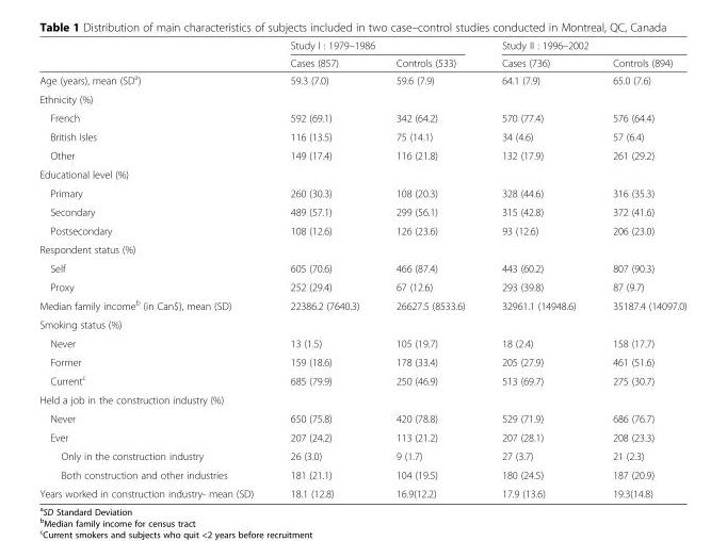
<table><thead><tr><td rowspan="2"></td><td colspan="2">Study I : 1979–1986</td><td colspan="2">Study II : 1996–2002</td></tr><tr><td>Cases (857)</td><td>Controls (533)</td><td>Cases (736)</td><td>Controls (894)</td></tr></thead><tbody><tr><td>Age (years), mean (SD<sup>a</sup>)</td><td>59.3 (7.0)</td><td>59.6 (7.9)</td><td>64.1 (7.9)</td><td>65.0 (7.6)</td></tr><tr><td colspan="5">Ethnicity (%)</td></tr><tr><td>French</td><td>592 (69.1)</td><td>342 (64.2)</td><td>570 (77.4)</td><td>576 (64.4)</td></tr><tr><td>British Isles</td><td>116 (13.5)</td><td>75 (14.1)</td><td>34 (4.6)</td><td>57 (6.4)</td></tr><tr><td>Other</td><td>149 (17.4)</td><td>116 (21.8)</td><td>132 (17.9)</td><td>261 (29.2)</td></tr><tr><td colspan="5">Educational level (%)</td></tr><tr><td>Primary</td><td>260 (30.3)</td><td>108 (20.3)</td><td>328 (44.6)</td><td>316 (35.3)</td></tr><tr><td>Secondary</td><td>489 (57.1)</td><td>299 (56.1)</td><td>315 (42.8)</td><td>372 (41.6)</td></tr><tr><td>Postsecondary</td><td>108 (12.6)</td><td>126 (23.6)</td><td>93 (12.6)</td><td>206 (23.0)</td></tr><tr><td colspan="5">Respondent status (%)</td></tr><tr><td>Self</td><td>605 (70.6)</td><td>466 (87.4)</td><td>443 (60.2)</td><td>807 (90.3)</td></tr><tr><td>Proxy</td><td>252 (29.4)</td><td>67 (12.6)</td><td>293 (39.8)</td><td>87 (9.7)</td></tr><tr><td>Median family income<sup>b</sup> (in Can$), mean (SD)</td><td>22386.2 (7640.3)</td><td>26627.5 (8533.6)</td><td>32961.1 (14948.6)</td><td>35187.4 (14097.0)</td></tr><tr><td colspan="5">Smoking status (%)</td></tr><tr><td>Never</td><td>13 (1.5)</td><td>105 (19.7)</td><td>18 (2.4)</td><td>158 (17.7)</td></tr><tr><td>Former</td><td>159 (18.6)</td><td>178 (33.4)</td><td>205 (27.9)</td><td>461 (51.6)</td></tr><tr><td>Current<sup>c</sup></td><td>685 (79.9)</td><td>250 (46.9)</td><td>513 (69.7)</td><td>275 (30.7)</td></tr><tr><td colspan="5">Held a job in the construction industry (%)</td></tr><tr><td>Never</td><td>650 (75.8)</td><td>420 (78.8)</td><td>529 (71.9)</td><td>686 (76.7)</td></tr><tr><td>Ever</td><td>207 (24.2)</td><td>113 (21.2)</td><td>207 (28.1)</td><td>208 (23.3)</td></tr><tr><td>Only in the construction industry</td><td>26 (3.0)</td><td>9 (1.7)</td><td>27 (3.7)</td><td>21 (2.3)</td></tr><tr><td>Both construction and other industries</td><td>181 (21.1)</td><td>104 (19.5)</td><td>180 (24.5)</td><td>187 (20.9)</td></tr><tr><td>Years worked in construction industry- mean (SD)</td><td>18.1 (12.8)</td><td>16.9(12.2)</td><td>17.9 (13.6)</td><td>19.3(14.8)</td></tr></tbody></table>